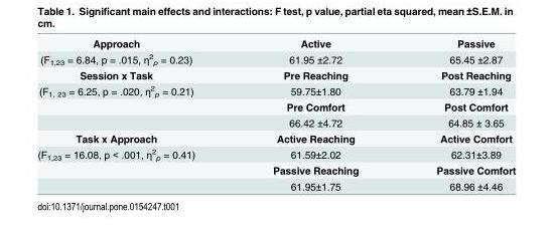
<table><tbody><tr><td>Approach</td><td>Active</td><td>Passive</td></tr><tr><td>(F<sub>1,23</sub> = 6.84, p = .015, η<sup>2</sup> <sub>p</sub> = 0.23)</td><td>61.95 ±2.72</td><td>65.45 ±2.87</td></tr><tr><td>Session x Task</td><td>Pre Reaching</td><td>Post Reaching</td></tr><tr><td rowspan="3">(F<sub>1, 23</sub> = 6.25, p = .020, η<sup>2</sup> <sub>p</sub> = 0.21)</td><td>59.75±1.80</td><td>63.79 ±1.94</td></tr><tr><td>Pre Comfort</td><td>Post Comfort</td></tr><tr><td>66.42 ±4.72</td><td>64.85 ± 3.65</td></tr><tr><td>Task x Approach</td><td>Active Reaching</td><td>Active Comfort</td></tr><tr><td rowspan="3">(F<sub>1,23</sub> = 16.08, p &lt; .001, η<sup>2</sup> <sub>p</sub> = 0.41)</td><td>61.59±2.02</td><td>62.31±3.89</td></tr><tr><td>Passive Reaching</td><td>Passive Comfort</td></tr><tr><td>61.95±1.75</td><td>68.96 ±4.46</td></tr></tbody></table>